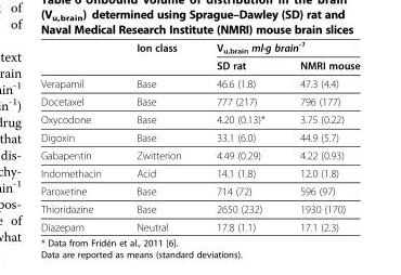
<table><thead><tr><td rowspan="2"></td><td rowspan="2">Ion class</td><td colspan="2">V<sub>u,brain</sub> ml·g brain<sup>-1</sup></td></tr><tr><td>SD rat</td><td>NMRI mouse</td></tr></thead><tbody><tr><td>Verapamil</td><td>Base</td><td>46.6 (1.8)</td><td>47.3 (4.4)</td></tr><tr><td>Docetaxel</td><td>Base</td><td>777 (217)</td><td>796 (177)</td></tr><tr><td>Oxycodone</td><td>Base</td><td>4.20 (0.13)*</td><td>3.75 (0.22)</td></tr><tr><td>Digoxin</td><td>Base</td><td>33.1 (6.0)</td><td>44.9 (5.7)</td></tr><tr><td>Gabapentin</td><td>Zwitterion</td><td>4.49 (0.29)</td><td>4.22 (0.93)</td></tr><tr><td>Indomethacin</td><td>Acid</td><td>14.1 (1.8)</td><td>12.0 (1.8)</td></tr><tr><td>Paroxetine</td><td>Base</td><td>714 (72)</td><td>596 (97)</td></tr><tr><td>Thioridazine</td><td>Base</td><td>2650 (232)</td><td>1930 (170)</td></tr><tr><td>Diazepam</td><td>Neutral</td><td>17.8 (1.1)</td><td>17.1 (2.3)</td></tr></tbody></table>